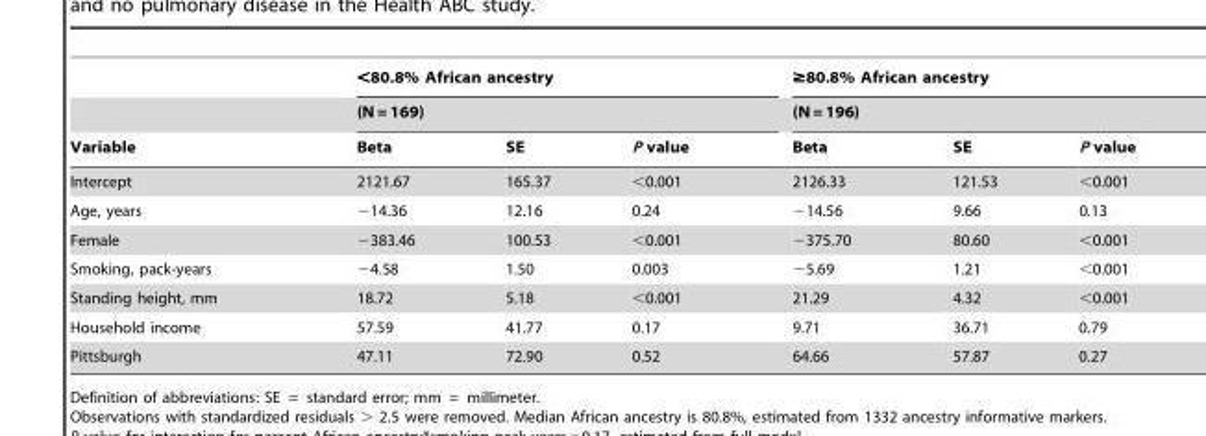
<table><thead><tr><td rowspan="3">Variable</td><td rowspan="2" colspan="3">&lt;80.8% African ancestry (N = 169)</td><td rowspan="2" colspan="3">≥80.8% African ancestry (N = 196)</td></tr><tr></tr><tr><td>Beta</td><td>SE</td><td>P value</td><td>Beta</td><td>SE</td><td>P value</td></tr></thead><tbody><tr><td>Intercept</td><td>2121.67</td><td>165.37</td><td>&lt;0.001</td><td>2126.33</td><td>121.53</td><td>&lt;0.001</td></tr><tr><td>Age, years</td><td>−14.36</td><td>12.16</td><td>0.24</td><td>−14.56</td><td>9.66</td><td>0.13</td></tr><tr><td>Female</td><td>−383.46</td><td>100.53</td><td>&lt;0.001</td><td>−375.70</td><td>80.60</td><td>&lt;0.001</td></tr><tr><td>Smoking, pack-years</td><td>−4.58</td><td>1.50</td><td>0.003</td><td>−5.69</td><td>1.21</td><td>&lt;0.001</td></tr><tr><td>Standing height, mm</td><td>18.72</td><td>5.18</td><td>&lt;0.001</td><td>21.29</td><td>4.32</td><td>&lt;0.001</td></tr><tr><td>Household income</td><td>57.59</td><td>41.77</td><td>0.17</td><td>9.71</td><td>36.71</td><td>0.79</td></tr><tr><td>Pittsburgh</td><td>47.11</td><td>72.90</td><td>0.52</td><td>64.66</td><td>57.87</td><td>0.27</td></tr></tbody></table>